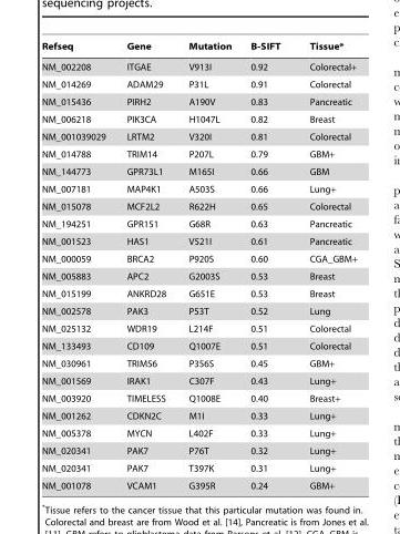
<table><thead><tr><td>Refseq</td><td>Gene</td><td>Mutation</td><td>B-SIFT</td><td>Tissue*</td></tr></thead><tbody><tr><td>NM_002208</td><td>ITGAE</td><td>V913I</td><td>0.92</td><td>Colorectal+</td></tr><tr><td>NM_014269</td><td>ADAM29</td><td>P31L</td><td>0.91</td><td>Colorectal</td></tr><tr><td>NM_015436</td><td>PIRH2</td><td>A190V</td><td>0.83</td><td>Pancreatic</td></tr><tr><td>NM_006218</td><td>PIK3CA</td><td>H1047L</td><td>0.82</td><td>Breast</td></tr><tr><td>NM_001039029</td><td>LRTM2</td><td>V320I</td><td>0.81</td><td>Colorectal</td></tr><tr><td>NM_014788</td><td>TRIM14</td><td>P207L</td><td>0.79</td><td>GBM+</td></tr><tr><td>NM_144773</td><td>GPR73L1</td><td>M165I</td><td>0.66</td><td>GBM</td></tr><tr><td>NM_007181</td><td>MAP4K1</td><td>A503S</td><td>0.66</td><td>Lung+</td></tr><tr><td>NM_015078</td><td>MCF2L2</td><td>R622H</td><td>0.65</td><td>Colorectal</td></tr><tr><td>NM_194251</td><td>GPR151</td><td>G68R</td><td>0.63</td><td>Pancreatic</td></tr><tr><td>NM_001523</td><td>HAS1</td><td>V521I</td><td>0.61</td><td>Pancreatic</td></tr><tr><td>NM_000059</td><td>BRCA2</td><td>P920S</td><td>0.60</td><td>CGA_GBM+</td></tr><tr><td>NM_005883</td><td>APC2</td><td>G2003S</td><td>0.53</td><td>Breast</td></tr><tr><td>NM_015199</td><td>ANKRD28</td><td>G651E</td><td>0.53</td><td>Breast</td></tr><tr><td>NM_002578</td><td>PAK3</td><td>P53T</td><td>0.52</td><td>Lung</td></tr><tr><td>NM_025132</td><td>WDR19</td><td>L214F</td><td>0.51</td><td>Colorectal</td></tr><tr><td>NM_133493</td><td>CD109</td><td>Q1007E</td><td>0.51</td><td>Colorectal</td></tr><tr><td>NM_030961</td><td>TRIM56</td><td>P356S</td><td>0.45</td><td>GBM+</td></tr><tr><td>NM_001569</td><td>IRAK1</td><td>C307F</td><td>0.43</td><td>Lung+</td></tr><tr><td>NM_003920</td><td>TIMELESS</td><td>Q1008E</td><td>0.40</td><td>Breast+</td></tr><tr><td>NM_001262</td><td>CDKN2C</td><td>M1I</td><td>0.33</td><td>Lung+</td></tr><tr><td>NM_005378</td><td>MYCN</td><td>L402F</td><td>0.33</td><td>Lung+</td></tr><tr><td>NM_020341</td><td>PAK7</td><td>P76T</td><td>0.32</td><td>Lung+</td></tr><tr><td>NM_020341</td><td>PAK7</td><td>T397K</td><td>0.31</td><td>Lung+</td></tr><tr><td>NM_001078</td><td>VCAM1</td><td>G395R</td><td>0.24</td><td>GBM+</td></tr></tbody></table>